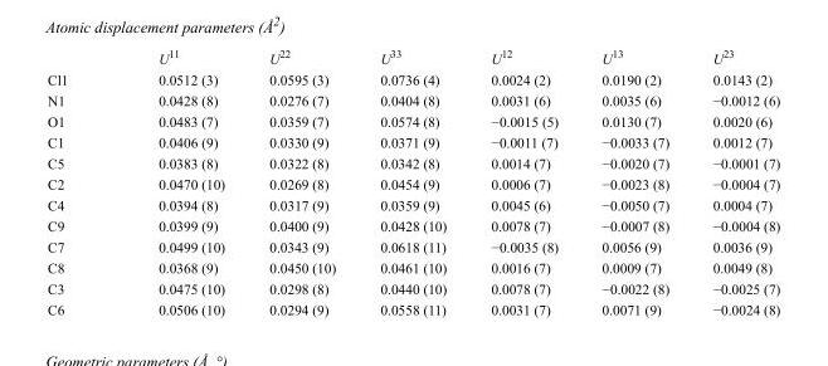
<table><thead><tr><td></td><td>U<sup>11</sup></td><td>U<sup>22</sup></td><td>U<sup>33</sup></td><td>U<sup>12</sup></td><td>U<sup>13</sup></td><td>U<sup>23</sup></td></tr></thead><tbody><tr><td>Cl1</td><td>0.0512 (3)</td><td>0.0595 (3)</td><td>0.0736 (4)</td><td>0.0024 (2)</td><td>0.0190 (2)</td><td>0.0143 (2)</td></tr><tr><td>N1</td><td>0.0428 (8)</td><td>0.0276 (7)</td><td>0.0404 (8)</td><td>0.0031 (6)</td><td>0.0035 (6)</td><td>−0.0012 (6)</td></tr><tr><td>O1</td><td>0.0483 (7)</td><td>0.0359 (7)</td><td>0.0574 (8)</td><td>−0.0015 (5)</td><td>0.0130 (7)</td><td>0.0020 (6)</td></tr><tr><td>C1</td><td>0.0406 (9)</td><td>0.0330 (9)</td><td>0.0371 (9)</td><td>−0.0011 (7)</td><td>−0.0033 (7)</td><td>0.0012 (7)</td></tr><tr><td>C5</td><td>0.0383 (8)</td><td>0.0322 (8)</td><td>0.0342 (8)</td><td>0.0014 (7)</td><td>−0.0020 (7)</td><td>−0.0001 (7)</td></tr><tr><td>C2</td><td>0.0470 (10)</td><td>0.0269 (8)</td><td>0.0454 (9)</td><td>0.0006 (7)</td><td>−0.0023 (8)</td><td>−0.0004 (7)</td></tr><tr><td>C4</td><td>0.0394 (8)</td><td>0.0317 (9)</td><td>0.0359 (9)</td><td>0.0045 (6)</td><td>−0.0050 (7)</td><td>0.0004 (7)</td></tr><tr><td>C9</td><td>0.0399 (9)</td><td>0.0400 (9)</td><td>0.0428 (10)</td><td>0.0078 (7)</td><td>−0.0007 (8)</td><td>−0.0004 (8)</td></tr><tr><td>C7</td><td>0.0499 (10)</td><td>0.0343 (9)</td><td>0.0618 (11)</td><td>−0.0035 (8)</td><td>0.0056 (9)</td><td>0.0036 (9)</td></tr><tr><td>C8</td><td>0.0368 (9)</td><td>0.0450 (10)</td><td>0.0461 (10)</td><td>0.0016 (7)</td><td>0.0009 (7)</td><td>0.0049 (8)</td></tr><tr><td>C3</td><td>0.0475 (10)</td><td>0.0298 (8)</td><td>0.0440 (10)</td><td>0.0078 (7)</td><td>−0.0022 (8)</td><td>−0.0025 (7)</td></tr><tr><td>C6</td><td>0.0506 (10)</td><td>0.0294 (9)</td><td>0.0558 (11)</td><td>0.0031 (7)</td><td>0.0071 (9)</td><td>−0.0024 (8)</td></tr></tbody></table>